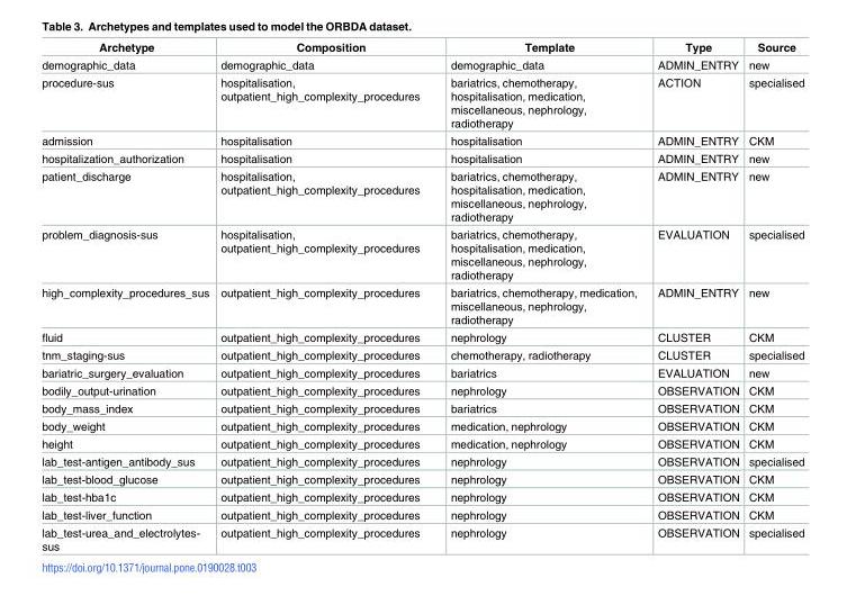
<table><thead><tr><td>Archetype</td><td>Composition</td><td>Template</td><td>Type</td><td>Source</td></tr></thead><tbody><tr><td>demographic_data</td><td>demographic_data</td><td>demographic_data</td><td>ADMIN_ENTRY</td><td>new</td></tr><tr><td>procedure-sus</td><td>hospitalisation, outpatient_high_complexity_procedures</td><td>bariatrics, chemotherapy, hospitalisation, medication, miscellaneous, nephrology, radiotherapy</td><td>ACTION</td><td>specialised</td></tr><tr><td>admission</td><td>hospitalisation</td><td>hospitalisation</td><td>ADMIN_ENTRY</td><td>CKM</td></tr><tr><td>hospitalization_authorization</td><td>hospitalisation</td><td>hospitalisation</td><td>ADMIN_ENTRY</td><td>new</td></tr><tr><td>patient_discharge</td><td>hospitalisation, outpatient_high_complexity_procedures</td><td>bariatrics, chemotherapy, hospitalisation, medication, miscellaneous, nephrology, radiotherapy</td><td>ADMIN_ENTRY</td><td>new</td></tr><tr><td>problem_diagnosis-sus</td><td>hospitalisation, outpatient_high_complexity_procedures</td><td>bariatrics, chemotherapy, hospitalisation, medication, miscellaneous, nephrology, radiotherapy</td><td>EVALUATION</td><td>specialised</td></tr><tr><td>high_complexity_procedures_sus</td><td>outpatient_high_complexity_procedures</td><td>bariatrics, chemotherapy, medication, miscellaneous, nephrology, radiotherapy</td><td>ADMIN_ENTRY</td><td>new</td></tr><tr><td>fluid</td><td>outpatient_high_complexity_procedures</td><td>nephrology</td><td>CLUSTER</td><td>CKM</td></tr><tr><td>tnm_staging-sus</td><td>outpatient_high_complexity_procedures</td><td>chemotherapy, radiotherapy</td><td>CLUSTER</td><td>specialised</td></tr><tr><td>bariatric_surgery_evaluation</td><td>outpatient_high_complexity_procedures</td><td>bariatrics</td><td>EVALUATION</td><td>new</td></tr><tr><td>bodily_output-urination</td><td>outpatient_high_complexity_procedures</td><td>nephrology</td><td>OBSERVATION</td><td>CKM</td></tr><tr><td>body_mass_index</td><td>outpatient_high_complexity_procedures</td><td>bariatrics</td><td>OBSERVATION</td><td>CKM</td></tr><tr><td>body_weight</td><td>outpatient_high_complexity_procedures</td><td>medication, nephrology</td><td>OBSERVATION</td><td>CKM</td></tr><tr><td>height</td><td>outpatient_high_complexity_procedures</td><td>medication, nephrology</td><td>OBSERVATION</td><td>CKM</td></tr><tr><td>lab_test-antigen_antibody_sus</td><td>outpatient_high_complexity_procedures</td><td>nephrology</td><td>OBSERVATION</td><td>specialised</td></tr><tr><td>lab_test-blood_glucose</td><td>outpatient_high_complexity_procedures</td><td>nephrology</td><td>OBSERVATION</td><td>CKM</td></tr><tr><td>lab_test-hba1c</td><td>outpatient_high_complexity_procedures</td><td>nephrology</td><td>OBSERVATION</td><td>CKM</td></tr><tr><td>lab_test-liver_function</td><td>outpatient_high_complexity_procedures</td><td>nephrology</td><td>OBSERVATION</td><td>CKM</td></tr><tr><td>lab_test-urea_and_electrolytes- sus</td><td>outpatient_high_complexity_procedures</td><td>nephrology</td><td>OBSERVATION</td><td>specialised</td></tr></tbody></table>